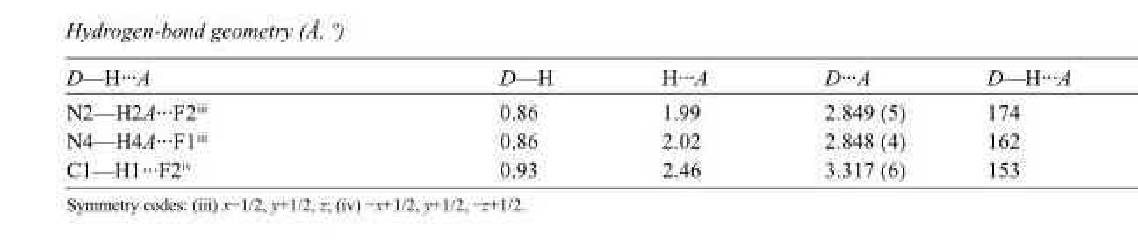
<table><tbody><tr><td>D—H···A</td><td>D—H</td><td>H···A</td><td>D···A</td><td>D—H···A</td></tr><tr><td>N2—H2A···F2<sup>iii</sup></td><td>0.86</td><td>1.99</td><td>2.849 (5)</td><td>174</td></tr><tr><td>N4—H4A···F1<sup>iii</sup></td><td>0.86</td><td>2.02</td><td>2.848 (4)</td><td>162</td></tr><tr><td>C1—H1···F2<sup>iv</sup></td><td>0.93</td><td>2.46</td><td>3.317 (6)</td><td>153</td></tr></tbody></table>